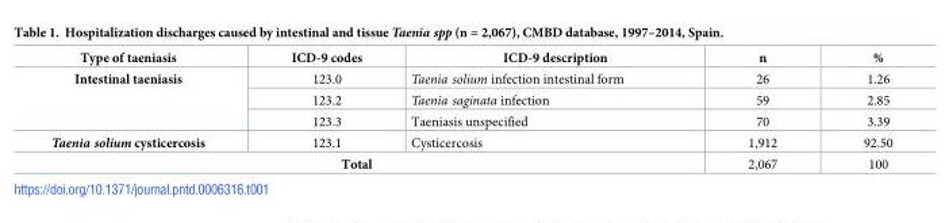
<table><thead><tr><td>Type of taeniasis</td><td>ICD-9 codes</td><td>ICD-9 description</td><td>n</td><td>%</td></tr></thead><tbody><tr><td rowspan="3">Intestinal taeniasis</td><td>123.0</td><td>Taenia solium infection intestinal form</td><td>26</td><td>1.26</td></tr><tr><td>123.2</td><td>Taenia saginata infection</td><td>59</td><td>2.85</td></tr><tr><td>123.3</td><td>Taeniasis unspecified</td><td>70</td><td>3.39</td></tr><tr><td>Taenia solium cysticercosis</td><td>123.1</td><td>Cysticercosis</td><td>1,912</td><td>92.50</td></tr><tr><td colspan="3">Total</td><td>2,067</td><td>100</td></tr></tbody></table>